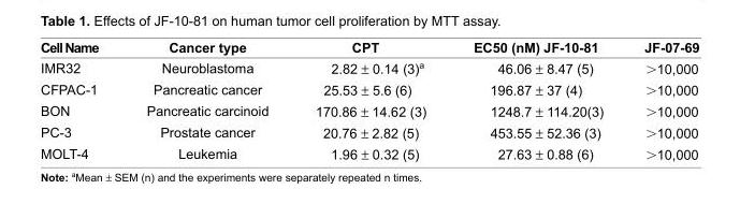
<table><thead><tr><td>Cell Name</td><td>Cancer type</td><td>CPT</td><td>EC50 (nM) JF-10-81</td><td>JF-07-69</td></tr></thead><tbody><tr><td>IMR32</td><td>Neuroblastoma</td><td>2.82 ± 0.14 (3)<sup>a</sup></td><td>46.06 ± 8.47 (5)</td><td>&gt;10,000</td></tr><tr><td>CFPAC-1</td><td>Pancreatic cancer</td><td>25.53 ± 5.6 (6)</td><td>196.87 ± 37 (4)</td><td>&gt;10,000</td></tr><tr><td>BON</td><td>Pancreatic carcinoid</td><td>170.86 ± 14.62 (3)</td><td>1248.7 ± 114.20(3)</td><td>&gt;10,000</td></tr><tr><td>PC-3</td><td>Prostate cancer</td><td>20.76 ± 2.82 (5)</td><td>453.55 ± 52.36 (3)</td><td>&gt;10,000</td></tr><tr><td>MOLT-4</td><td>Leukemia</td><td>1.96 ± 0.32 (5)</td><td>27.63 ± 0.88 (6)</td><td>&gt;10,000</td></tr></tbody></table>